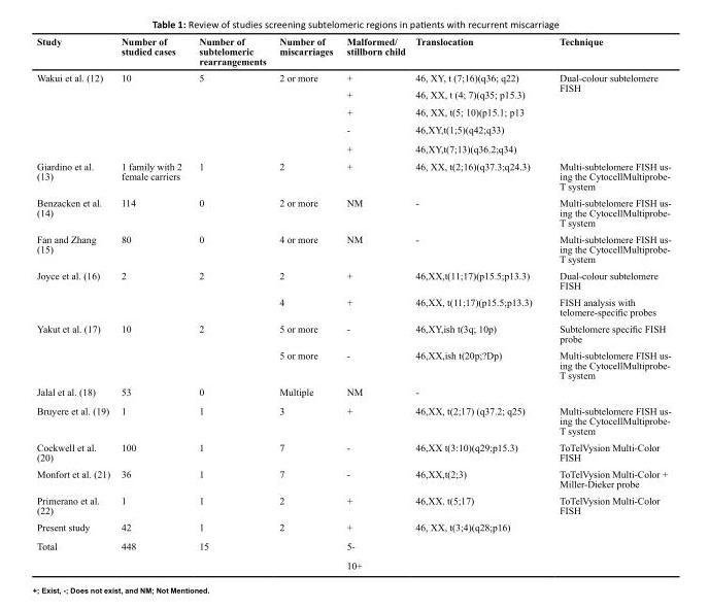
<table><thead><tr><td>Study</td><td>Number of studied cases</td><td>Number of subtelomeric rearrangements</td><td>Number of miscarriages</td><td>Malformed/ stillborn child</td><td>Translocation</td><td>Technique</td></tr></thead><tbody><tr><td rowspan="5">Wakui et al. (12)</td><td rowspan="5">10</td><td rowspan="5">5</td><td rowspan="5">2 or more</td><td>+</td><td>46, XY, t (7;16)(q36; q22)</td><td rowspan="5">Dual-colour subtelomere FISH</td></tr><tr><td>+</td><td>46, XX, t (4; 7)(q35; p15.3)</td></tr><tr><td>+</td><td>46, XX, t(5; 10)(p15.1; p13</td></tr><tr><td>-</td><td>46,XY,t(1;5)(q42;q33)</td></tr><tr><td>+</td><td>46,XY,t(7;13)(q36.2;q34)</td></tr><tr><td>Giardino et al. (13)</td><td>1 family with 2 female carriers</td><td>1</td><td>2</td><td>+</td><td>46, XX, t(2;16)(q37.3;q24.3)</td><td>Multi-subtelomere FISH us- ing the CytocellMultiprobe- T system</td></tr><tr><td>Benzacken et al. (14)</td><td>114</td><td>0</td><td>2 or more</td><td>NM</td><td>-</td><td>Multi-subtelomere FISH us- ing the CytocellMultiprobe- T system</td></tr><tr><td>Fan and Zhang (15)</td><td>80</td><td>0</td><td>4 or more</td><td>NM</td><td>-</td><td>Multi-subtelomere FISH us- ing the CytocellMultiprobe- T system</td></tr><tr><td rowspan="2">Joyce et al. (16)</td><td rowspan="2">2</td><td rowspan="2">2</td><td>2</td><td>+</td><td>46,XX,t(11;17)(p15.5;p13.3)</td><td>Dual-colour subtelomere FISH</td></tr><tr><td>4</td><td>+</td><td>46,XX, t(11;17)(p15.5;p13.3)</td><td>FISH analysis with telomere-specific probes</td></tr><tr><td rowspan="2">Yakut et al. (17)</td><td rowspan="2">10</td><td rowspan="2">2</td><td>5 or more</td><td>-</td><td>46,XY,ish t(3q; 10p)</td><td>Subtelomere specific FISH probe</td></tr><tr><td>5 or more</td><td>-</td><td>46,XX,ish t(20p;?Dp)</td><td>Multi-subtelomere FISH us- ing the CytocellMultiprobe- T system</td></tr><tr><td>Jalal et al. (18)</td><td>53</td><td>0</td><td>Multiple</td><td>NM</td><td>-</td><td></td></tr><tr><td>Bruyere et al. (19)</td><td>1</td><td>1</td><td>3</td><td>+</td><td>46,XX, t(2;17) (q37.2; q25)</td><td>Multi-subtelomere FISH us- ing the CytocellMultiprobe- T system</td></tr><tr><td>Cockwell et al. (20)</td><td>100</td><td>1</td><td>7</td><td>-</td><td>46,XX t(3:10)(q29;p15.3)</td><td>ToTelVysion Multi-Color FISH</td></tr><tr><td>Monfort et al. (21)</td><td>36</td><td>1</td><td>7</td><td>-</td><td>46,XX,t(2;3)</td><td>ToTelVysion Multi-Color + Miller-Dieker probe</td></tr><tr><td>Primerano et al. (22)</td><td>1</td><td>1</td><td>2</td><td>+</td><td>46,XX. t(5;17)</td><td>ToTelVysion Multi-Color FISH</td></tr><tr><td>Present study</td><td>42</td><td>1</td><td>2</td><td>+</td><td>46, XX, t(3;4)(q28;p16)</td><td></td></tr><tr><td rowspan="2">Total</td><td>448</td><td>15</td><td></td><td>5-</td><td></td><td></td></tr><tr><td></td><td></td><td></td><td>10+</td><td></td><td></td></tr></tbody></table>